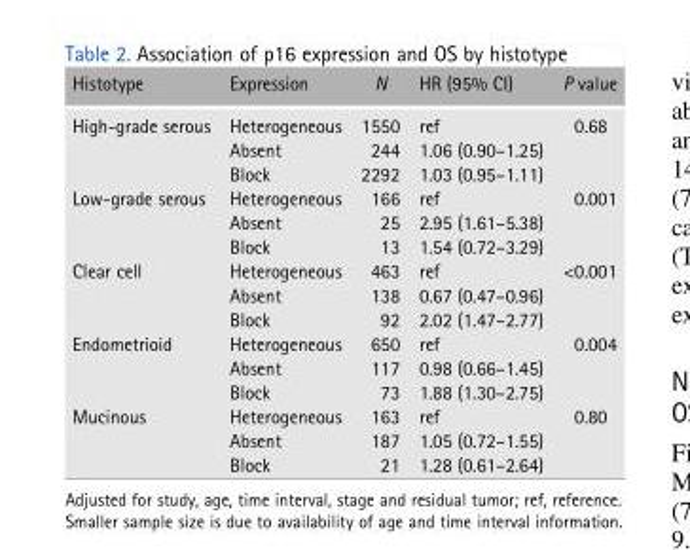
<table><thead><tr><td>Histotype</td><td>Expression</td><td>N</td><td>HR (95% CI)</td><td>P value</td></tr></thead><tbody><tr><td rowspan="3">High-grade serous</td><td>Heterogeneous</td><td>1550</td><td>ref</td><td>0.68</td></tr><tr><td>Absent</td><td>244</td><td>1.06 (0.90–1.25)</td><td></td></tr><tr><td>Block</td><td>2292</td><td>1.03 (0.95–1.11)</td><td></td></tr><tr><td rowspan="3">Low-grade serous</td><td>Heterogeneous</td><td>166</td><td>ref</td><td>0.001</td></tr><tr><td>Absent</td><td>25</td><td>2.95 (1.61–5.38)</td><td></td></tr><tr><td>Block</td><td>13</td><td>1.54 (0.72–3.29)</td><td></td></tr><tr><td rowspan="3">Clear cell</td><td>Heterogeneous</td><td>463</td><td>ref</td><td>&lt;0.001</td></tr><tr><td>Absent</td><td>138</td><td>0.67 (0.47–0.96)</td><td></td></tr><tr><td>Block</td><td>92</td><td>2.02 (1.47–2.77)</td><td></td></tr><tr><td rowspan="3">Endometrioid</td><td>Heterogeneous</td><td>650</td><td>ref</td><td>0.004</td></tr><tr><td>Absent</td><td>117</td><td>0.98 (0.66–1.45)</td><td></td></tr><tr><td>Block</td><td>73</td><td>1.88 (1.30–2.75)</td><td></td></tr><tr><td rowspan="3">Mucinous</td><td>Heterogeneous</td><td>163</td><td>ref</td><td>0.80</td></tr><tr><td>Absent</td><td>187</td><td>1.05 (0.72–1.55)</td><td></td></tr><tr><td>Block</td><td>21</td><td>1.28 (0.61–2.64)</td><td></td></tr></tbody></table>